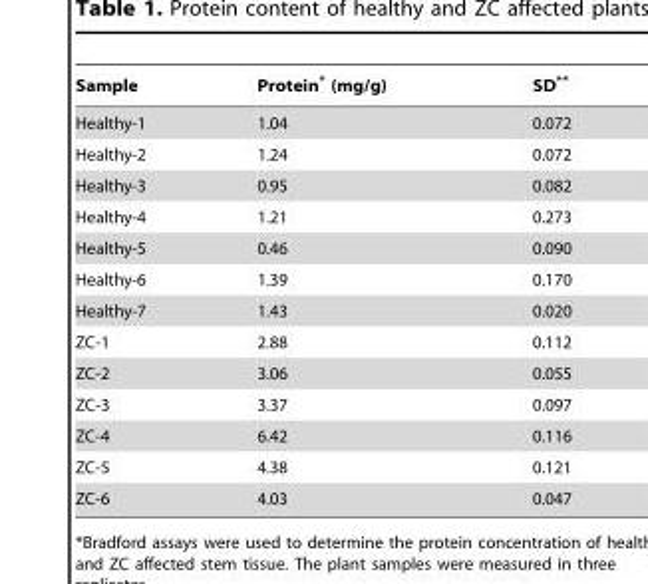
<table><thead><tr><td>Sample</td><td>Protein* (mg/g)</td><td>SD**</td></tr></thead><tbody><tr><td>Healthy-1</td><td>1.04</td><td>0.072</td></tr><tr><td>Healthy-2</td><td>1.24</td><td>0.072</td></tr><tr><td>Healthy-3</td><td>0.95</td><td>0.082</td></tr><tr><td>Healthy-4</td><td>1.21</td><td>0.273</td></tr><tr><td>Healthy-5</td><td>0.46</td><td>0.090</td></tr><tr><td>Healthy-6</td><td>1.39</td><td>0.170</td></tr><tr><td>Healthy-7</td><td>1.43</td><td>0.020</td></tr><tr><td>ZC-1</td><td>2.88</td><td>0.112</td></tr><tr><td>ZC-2</td><td>3.06</td><td>0.055</td></tr><tr><td>ZC-3</td><td>3.37</td><td>0.097</td></tr><tr><td>ZC-4</td><td>6.42</td><td>0.116</td></tr><tr><td>ZC-5</td><td>4.38</td><td>0.121</td></tr><tr><td>ZC-6</td><td>4.03</td><td>0.047</td></tr></tbody></table>